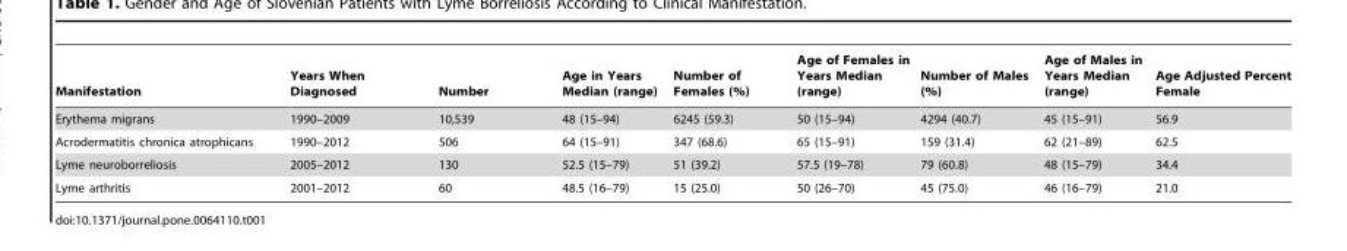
<table><thead><tr><td>Manifestation</td><td>Years When Diagnosed</td><td>Number</td><td>Age in Years Median (range)</td><td>Number of Females (%)</td><td>Age of Females in Years Median (range)</td><td>Number of Males (%)</td><td>Age of Males in Years Median (range)</td><td>Age Adjusted Percent Female</td></tr></thead><tbody><tr><td>Erythema migrans</td><td>1990–2009</td><td>10,539</td><td>48 (15–94)</td><td>6245 (59.3)</td><td>50 (15–94)</td><td>4294 (40.7)</td><td>45 (15–91)</td><td>56.9</td></tr><tr><td>Acrodermatitis chronica atrophicans</td><td>1990–2012</td><td>506</td><td>64 (15–91)</td><td>347 (68.6)</td><td>65 (15–91)</td><td>159 (31.4)</td><td>62 (21–89)</td><td>62.5</td></tr><tr><td>Lyme neuroborreliosis</td><td>2005–2012</td><td>130</td><td>52.5 (15–79)</td><td>51 (39.2)</td><td>57.5 (19–78)</td><td>79 (60.8)</td><td>48 (15–79)</td><td>34.4</td></tr><tr><td>Lyme arthritis</td><td>2001–2012</td><td>60</td><td>48.5 (16–79)</td><td>15 (25.0)</td><td>50 (26–70)</td><td>45 (75.0)</td><td>46 (16–79)</td><td>21.0</td></tr></tbody></table>